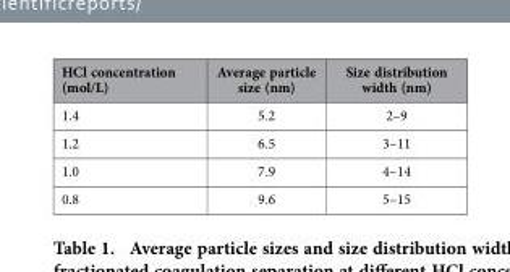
<table><thead><tr><td>HCl concentration (mol/L)</td><td>Average particle size (nm)</td><td>Size distribution width (nm)</td></tr></thead><tbody><tr><td>1.4</td><td>5.2</td><td>2–9</td></tr><tr><td>1.2</td><td>6.5</td><td>3–11</td></tr><tr><td>1.0</td><td>7.9</td><td>4–14</td></tr><tr><td>0.8</td><td>9.6</td><td>5–15</td></tr></tbody></table>